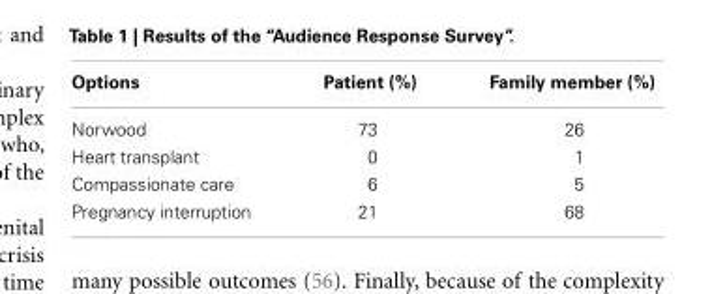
<table><thead><tr><td>Options</td><td>Patient (%)</td><td>Family member (%)</td></tr></thead><tbody><tr><td>Norwood</td><td>73</td><td>26</td></tr><tr><td>Heart transplant</td><td>0</td><td>1</td></tr><tr><td>Compassionate care</td><td>6</td><td>5</td></tr><tr><td>Pregnancy interruption</td><td>21</td><td>68</td></tr></tbody></table>